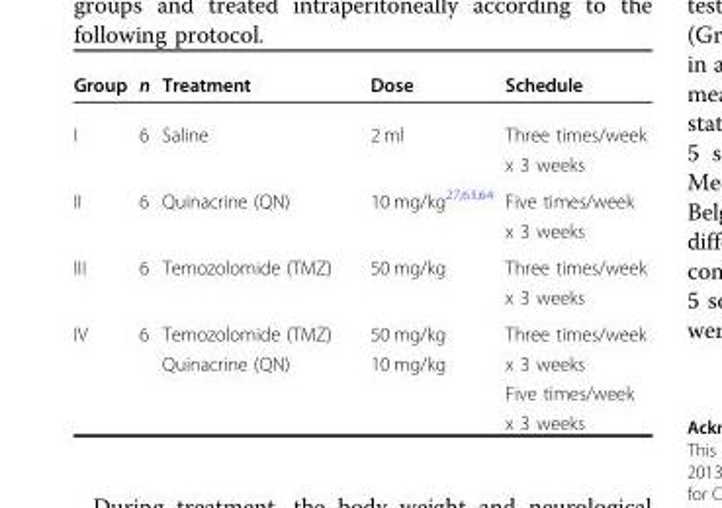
<table><thead><tr><td>Group</td><td>n</td><td>Treatment</td><td>Dose</td><td>Schedule</td></tr></thead><tbody><tr><td>I</td><td>6</td><td>Saline</td><td>2 ml</td><td>Three times/week x 3 weeks</td></tr><tr><td>II</td><td>6</td><td>Quinacrine (QN)</td><td>10 mg/kg<sup>27,63,64</sup></td><td>Five times/week x 3 weeks</td></tr><tr><td>III</td><td>6</td><td>Temozolomide (TMZ)</td><td>50 mg/kg</td><td>Three times/week x 3 weeks</td></tr><tr><td>IV</td><td>6</td><td>Temozolomide (TMZ) Quinacrine (QN)</td><td>50 mg/kg 10 mg/kg</td><td>Three times/week x 3 weeks Five times/week x 3 weeks</td></tr></tbody></table>